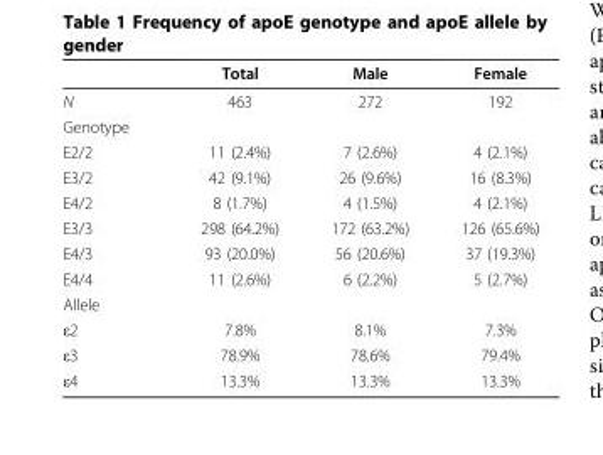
<table><thead><tr><td></td><td>Total</td><td>Male</td><td>Female</td></tr></thead><tbody><tr><td>N</td><td>463</td><td>272</td><td>192</td></tr><tr><td colspan="4">Genotype</td></tr><tr><td>E2/2</td><td>11 (2.4%)</td><td>7 (2.6%)</td><td>4 (2.1%)</td></tr><tr><td>E3/2</td><td>42 (9.1%)</td><td>26 (9.6%)</td><td>16 (8.3%)</td></tr><tr><td>E4/2</td><td>8 (1.7%)</td><td>4 (1.5%)</td><td>4 (2.1%)</td></tr><tr><td>E3/3</td><td>298 (64.2%)</td><td>172 (63.2%)</td><td>126 (65.6%)</td></tr><tr><td>E4/3</td><td>93 (20.0%)</td><td>56 (20.6%)</td><td>37 (19.3%)</td></tr><tr><td>E4/4</td><td>11 (2.6%)</td><td>6 (2.2%)</td><td>5 (2.7%)</td></tr><tr><td colspan="4">Allele</td></tr><tr><td>ε2</td><td>7.8%</td><td>8.1%</td><td>7.3%</td></tr><tr><td>ε3</td><td>78.9%</td><td>78.6%</td><td>79.4%</td></tr><tr><td>ε4</td><td>13.3%</td><td>13.3%</td><td>13.3%</td></tr></tbody></table>